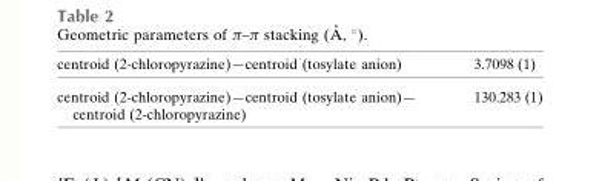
<table><thead><tr><td>centroid (2-chloropyrazine)—centroid (tosylate anion)</td><td>3.7098 (1)</td></tr></thead><tbody><tr><td>centroid (2-chloropyrazine)—centroid (tosylate anion)— centroid (2-chloropyrazine)</td><td>130.283 (1)</td></tr></tbody></table>